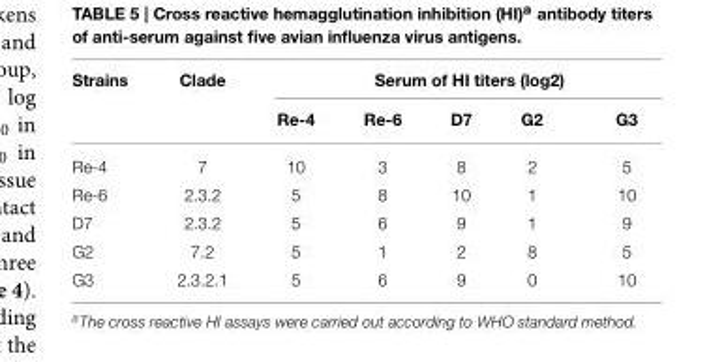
<table><thead><tr><td rowspan="2">Strains</td><td rowspan="2">Clade</td><td colspan="5">Serum of HI titers (log2)</td></tr><tr><td>Re-4</td><td>Re-6</td><td>D7</td><td>G2</td><td>G3</td></tr></thead><tbody><tr><td>Re-4</td><td>7</td><td>10</td><td>3</td><td>8</td><td>2</td><td>5</td></tr><tr><td>Re-6</td><td>2.3.2</td><td>5</td><td>8</td><td>10</td><td>1</td><td>10</td></tr><tr><td>D7</td><td>2.3.2</td><td>5</td><td>6</td><td>9</td><td>1</td><td>9</td></tr><tr><td>G2</td><td>7.2</td><td>5</td><td>1</td><td>2</td><td>8</td><td>5</td></tr><tr><td>G3</td><td>2.3.2.1</td><td>5</td><td>6</td><td>9</td><td>0</td><td>10</td></tr></tbody></table>